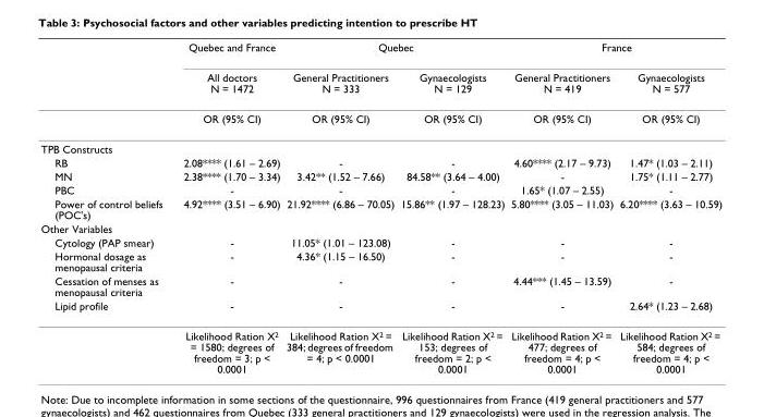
<table><thead><tr><td rowspan="2"></td><td rowspan="2">Quebec and France All doctors N = 1472</td><td colspan="2">Quebec</td><td colspan="2">France</td></tr><tr><td>General Practitioners N = 333</td><td>Gynaecologists N = 129</td><td>General Practitioners N = 419</td><td>Gynaecologists N = 577</td></tr></thead><tbody><tr><td></td><td>OR (95% CI)</td><td>OR (95% CI)</td><td>OR (95% CI)</td><td>OR (95% CI)</td><td>OR (95% CI)</td></tr><tr><td colspan="6">TPB Constructs</td></tr><tr><td>RB</td><td>2.08**** (1.61 – 2.69)</td><td>-</td><td>-</td><td>4.60**** (2.17 – 9.73)</td><td>1.47* (1.03 – 2.11)</td></tr><tr><td>MN</td><td>2.38**** (1.70 – 3.34)</td><td>3.42** (1.52 – 7.66)</td><td>84.58** (3.64 – 4.00)</td><td>-</td><td>1.75* (1.11 – 2.77)</td></tr><tr><td>PBC</td><td>-</td><td>-</td><td>-</td><td>1.65* (1.07 – 2.55)</td><td>-</td></tr><tr><td>Power of control beliefs (POC&#x27;s)</td><td>4.92**** (3.51 – 6.90)</td><td>21.92**** (6.86 – 70.05)</td><td>15.86** (1.97 – 128.23)</td><td>5.80**** (3.05 – 11.03)</td><td>6.20**** (3.63 – 10.59)</td></tr><tr><td colspan="6">Other Variables</td></tr><tr><td>Cytology (PAP smear)</td><td>-</td><td>11.05* (1.01 – 123.08)</td><td>-</td><td>-</td><td>-</td></tr><tr><td>Hormonal dosage as menopausal criteria</td><td>-</td><td>4.36* (1.15 – 16.50)</td><td>-</td><td>-</td><td>-</td></tr><tr><td>Cessation of menses as menopausal criteria</td><td>-</td><td>-</td><td>-</td><td>4.44*** (1.45 – 13.59)</td><td>-</td></tr><tr><td rowspan="2">Lipid profile</td><td>-</td><td>-</td><td>-</td><td>-</td><td>2.64* (1.23 – 2.68)</td></tr><tr><td>Likelihood Ration X<sup>2</sup> = 1580; degrees of freedom = 3; p &lt; 0.0001</td><td>Likelihood Ration X<sup>2</sup> = 384; degrees of freedom = 4; p &lt; 0.0001</td><td>Likelihood Ration X<sup>2</sup> = 153; degrees of freedom = 2; p &lt; 0.0001</td><td>Likelihood Ration X<sup>2</sup> = 477; degrees of freedom = 4; p &lt; 0.0001</td><td>Likelihood Ration X<sup>2</sup> = 584; degrees of freedom = 4; p &lt; 0.0001</td></tr></tbody></table>